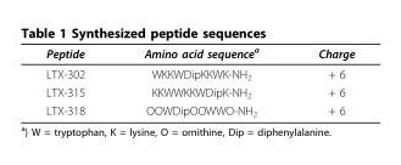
<table><thead><tr><td>Peptide</td><td>Amino acid sequence<sup>a</sup></td><td>Charge</td></tr></thead><tbody><tr><td>LTX-302</td><td>WKKWDipKKWK-NH<sub>2</sub></td><td>+ 6</td></tr><tr><td>LTX-315</td><td>KKWWKKWDipK-NH<sub>2</sub></td><td>+ 6</td></tr><tr><td>LTX-318</td><td>OOWDipOOWWO-NH<sub>2</sub></td><td>+ 6</td></tr></tbody></table>